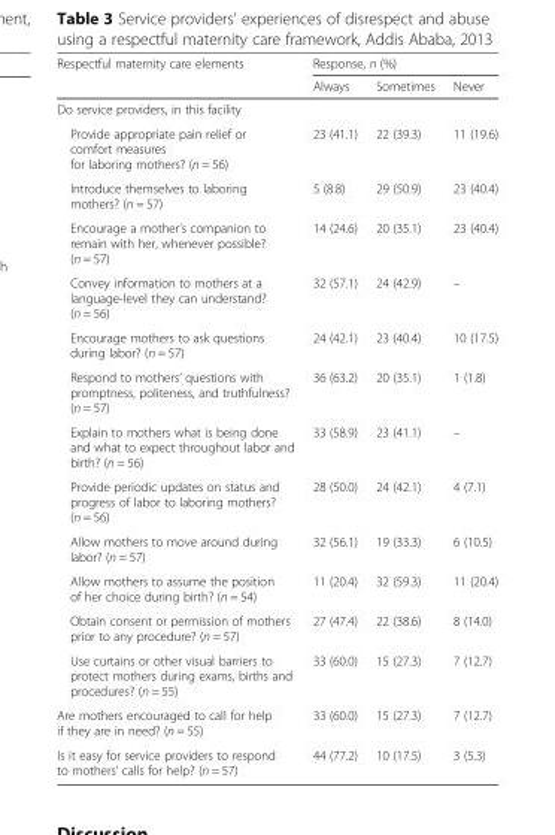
<table><thead><tr><td rowspan="2">Respectful maternity care elements</td><td colspan="3">Response, n (%)</td></tr><tr><td>Always</td><td>Sometimes</td><td>Never</td></tr></thead><tbody><tr><td colspan="4">Do service providers, in this facility</td></tr><tr><td>Provide appropriate pain relief or comfort measures for laboring mothers? (n = 56)</td><td>23 (41.1)</td><td>22 (39.3)</td><td>11 (19.6)</td></tr><tr><td>Introduce themselves to laboring mothers? (n = 57)</td><td>5 (8.8)</td><td>29 (50.9)</td><td>23 (40.4)</td></tr><tr><td>Encourage a mother’s companion to remain with her, whenever possible? (n = 57)</td><td>14 (24.6)</td><td>20 (35.1)</td><td>23 (40.4)</td></tr><tr><td>Convey information to mothers at a language-level they can understand? (n = 56)</td><td>32 (57.1)</td><td>24 (42.9)</td><td>–</td></tr><tr><td>Encourage mothers to ask questions during labor? (n = 57)</td><td>24 (42.1)</td><td>23 (40.4)</td><td>10 (17.5)</td></tr><tr><td>Respond to mothers’ questions with promptness, politeness, and truthfulness? (n = 57)</td><td>36 (63.2)</td><td>20 (35.1)</td><td>1 (1.8)</td></tr><tr><td>Explain to mothers what is being done and what to expect throughout labor and birth? (n = 56)</td><td>33 (58.9)</td><td>23 (41.1)</td><td>–</td></tr><tr><td>Provide periodic updates on status and progress of labor to laboring mothers? (n = 56)</td><td>28 (50.0)</td><td>24 (42.1)</td><td>4 (7.1)</td></tr><tr><td>Allow mothers to move around during labor? (n = 57)</td><td>32 (56.1)</td><td>19 (33.3)</td><td>6 (10.5)</td></tr><tr><td>Allow mothers to assume the position of her choice during birth? (n = 54)</td><td>11 (20.4)</td><td>32 (59.3)</td><td>11 (20.4)</td></tr><tr><td>Obtain consent or permission of mothers prior to any procedure? (n = 57)</td><td>27 (47.4)</td><td>22 (38.6)</td><td>8 (14.0)</td></tr><tr><td>Use curtains or other visual barriers to protect mothers during exams, births and procedures? (n = 55)</td><td>33 (60.0)</td><td>15 (27.3)</td><td>7 (12.7)</td></tr><tr><td>Are mothers encouraged to call for help if they are in need? (n = 55)</td><td>33 (60.0)</td><td>15 (27.3)</td><td>7 (12.7)</td></tr><tr><td>Is it easy for service providers to respond to mothers’ calls for help? (n = 57)</td><td>44 (77.2)</td><td>10 (17.5)</td><td>3 (5.3)</td></tr></tbody></table>